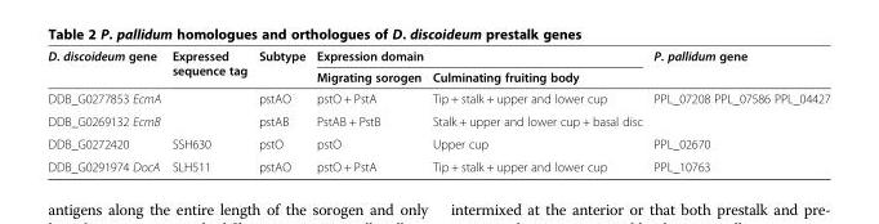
<table><thead><tr><td rowspan="2">D. discoideum gene</td><td rowspan="2">Expressed sequence tag</td><td rowspan="2">Subtype</td><td colspan="2">Expression domain</td><td rowspan="2">P. pallidum gene</td></tr><tr><td>Migrating sorogen</td><td>Culminating fruiting body</td></tr></thead><tbody><tr><td>DDB_G0277853 EcmA</td><td></td><td>pstAO</td><td>pstO + PstA</td><td>Tip + stalk + upper and lower cup</td><td rowspan="2">PPL_07208 PPL_07586 PPL_04427</td></tr><tr><td>DDB_G0269132 EcmB</td><td></td><td>pstAB</td><td>PstAB + PstB</td><td>Stalk + upper and lower cup + basal disc</td></tr><tr><td>DDB_G0272420</td><td>SSH630</td><td>pstO</td><td>pstO</td><td>Upper cup</td><td>PPL_02670</td></tr><tr><td>DDB_G0291974 DocA</td><td>SLH511</td><td>pstAO</td><td>pstO + PstA</td><td>Tip + stalk + upper and lower cup</td><td>PPL_10763</td></tr></tbody></table>